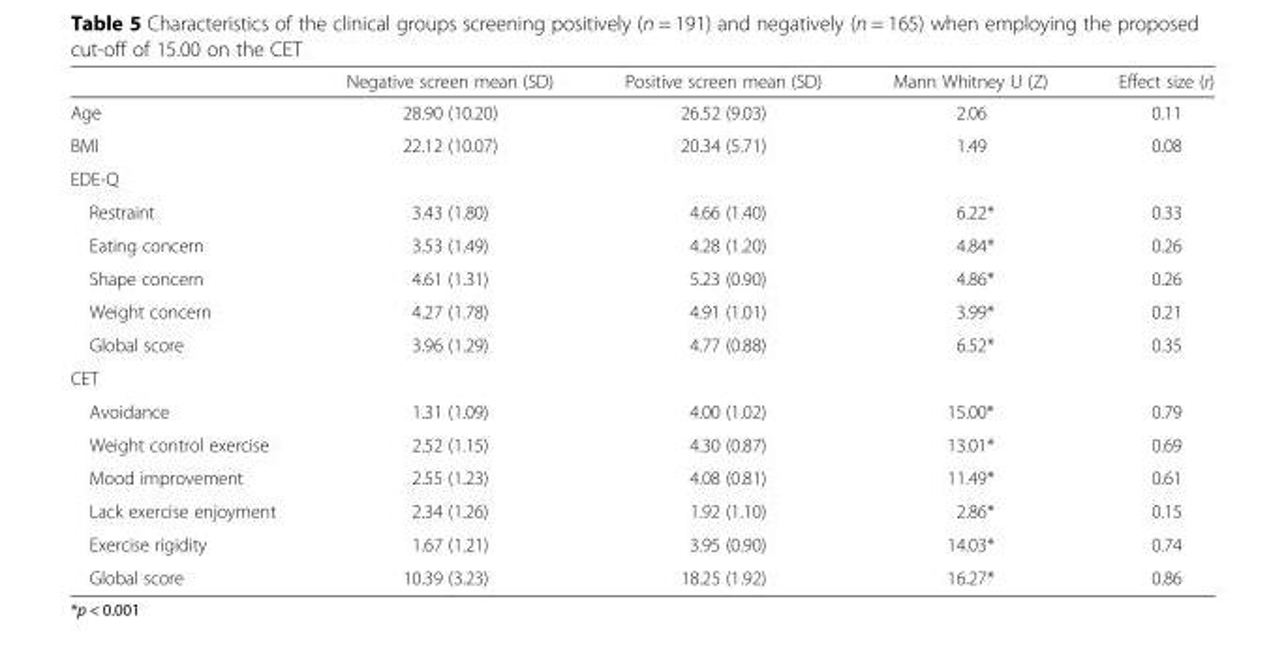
<table><thead><tr><td></td><td>Negative screen mean (SD)</td><td>Positive screen mean (SD)</td><td>Mann Whitney U (Z)</td><td>Effect size (r)</td></tr></thead><tbody><tr><td>Age</td><td>28.90 (10.20)</td><td>26.52 (9.03)</td><td>2.06</td><td>0.11</td></tr><tr><td>BMI</td><td>22.12 (10.07)</td><td>20.34 (5.71)</td><td>1.49</td><td>0.08</td></tr><tr><td colspan="5">EDE-Q</td></tr><tr><td>Restraint</td><td>3.43 (1.80)</td><td>4.66 (1.40)</td><td>6.22*</td><td>0.33</td></tr><tr><td>Eating concern</td><td>3.53 (1.49)</td><td>4.28 (1.20)</td><td>4.84*</td><td>0.26</td></tr><tr><td>Shape concern</td><td>4.61 (1.31)</td><td>5.23 (0.90)</td><td>4.86*</td><td>0.26</td></tr><tr><td>Weight concern</td><td>4.27 (1.78)</td><td>4.91 (1.01)</td><td>3.99*</td><td>0.21</td></tr><tr><td>Global score</td><td>3.96 (1.29)</td><td>4.77 (0.88)</td><td>6.52*</td><td>0.35</td></tr><tr><td colspan="5">CET</td></tr><tr><td>Avoidance</td><td>1.31 (1.09)</td><td>4.00 (1.02)</td><td>15.00*</td><td>0.79</td></tr><tr><td>Weight control exercise</td><td>2.52 (1.15)</td><td>4.30 (0.87)</td><td>13.01*</td><td>0.69</td></tr><tr><td>Mood improvement</td><td>2.55 (1.23)</td><td>4.08 (0.81)</td><td>11.49*</td><td>0.61</td></tr><tr><td>Lack exercise enjoyment</td><td>2.34 (1.26)</td><td>1.92 (1.10)</td><td>2.86*</td><td>0.15</td></tr><tr><td>Exercise rigidity</td><td>1.67 (1.21)</td><td>3.95 (0.90)</td><td>14.03*</td><td>0.74</td></tr><tr><td>Global score</td><td>10.39 (3.23)</td><td>18.25 (1.92)</td><td>16.27*</td><td>0.86</td></tr></tbody></table>